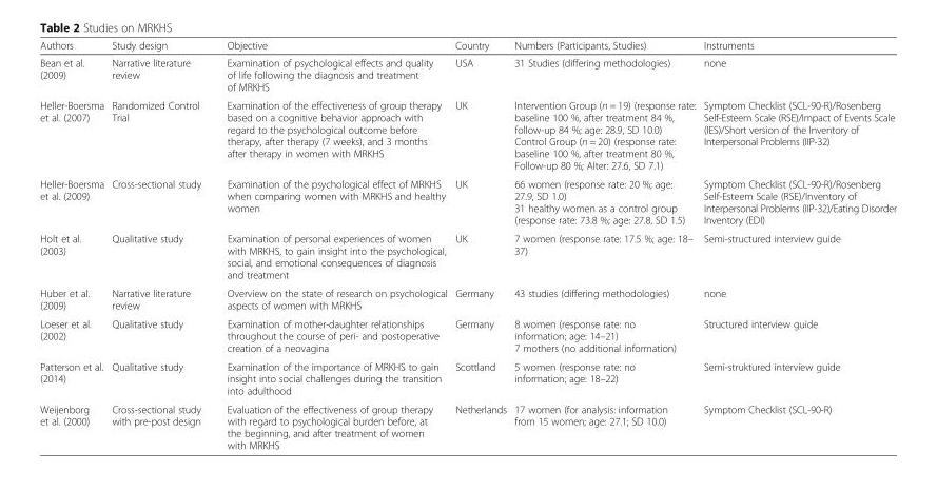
<table><thead><tr><td>Authors</td><td>Study design</td><td>Objective</td><td>Country</td><td>Numbers (Participants, Studies)</td><td>Instruments</td></tr></thead><tbody><tr><td>Bean et al. (2009)</td><td>Narrative literature review</td><td>Examination of psychological effects and quality of life following the diagnosis and treatment of MRKHS</td><td>USA</td><td>31 Studies (differing methodologies)</td><td>none</td></tr><tr><td>Heller-Boersma et al. (2007)</td><td>Randomized Control Trial</td><td>Examination of the effectiveness of group therapy based on a cognitive behavior approach with regard to the psychological outcome before therapy, after therapy (7 weeks), and 3 months after therapy in women with MRKHS</td><td>UK</td><td>Intervention Group (n = 19) (response rate: baseline 100 %, after treatment 84 %, follow-up 84 %; age: 28.9, SD 10.0) Control Group (n = 20) (response rate: baseline 100 %, after treatment 80 %, Follow-up 80 %; Alter: 27.6, SD 7.1)</td><td>Symptom Checklist (SCL-90-R)/Rosenberg Self-Esteem Scale (RSE)/Impact of Events Scale (IES)/Short version of the Inventory of Interpersonal Problems (IIP-32)</td></tr><tr><td>Heller-Boersma et al. (2009)</td><td>Cross-sectional study</td><td>Examination of the psychological effect of MRKHS when comparing women with MRKHS and healthy women</td><td>UK</td><td>66 women (response rate: 20 %; age: 27.9, SD 1.0) 31 healthy women as a control group (response rate: 73.8 %; age: 27.8, SD 1.5)</td><td>Symptom Checklist (SCL-90-R)/Rosenberg Self-Esteem Scale (RSE)/Inventory of Interpersonal Problems (IIP-32)/Eating Disorder Inventory (EDI)</td></tr><tr><td>Holt et al. (2003)</td><td>Qualitative study</td><td>Examination of personal experiences of women with MRKHS, to gain insight into the psychological, social, and emotional consequences of diagnosis and treatment</td><td>UK</td><td>7 women (response rate: 17.5 %; age: 18– 37)</td><td>Semi-structured interview guide</td></tr><tr><td>Huber et al. (2009)</td><td>Narrative literature review</td><td>Overview on the state of research on psychological aspects of women with MRKHS</td><td>Germany</td><td>43 studies (differing methodologies)</td><td>none</td></tr><tr><td>Loeser et al. (2002)</td><td>Qualitative study</td><td>Examination of mother-daughter relationships throughout the course of peri- and postoperative creation of a neovagina</td><td>Germany</td><td>8 women (response rate: no information; age: 14–21) 7 mothers (no additional information)</td><td>Structured interview guide</td></tr><tr><td>Patterson et al. (2014)</td><td>Qualitative study</td><td>Examination of the importance of MRKHS to gain insight into social challenges during the transition into adulthood</td><td>Scottland</td><td>5 women (response rate: no information; age: 18–22)</td><td>Semi-struktured interview guide</td></tr><tr><td>Weijenborg et al. (2000)</td><td>Cross-sectional study with pre-post design</td><td>Evaluation of the effectiveness of group therapy with regard to psychological burden before, at the beginning, and after treatment of women with MRKHS</td><td>Netherlands</td><td>17 women (for analysis: information from 15 women; age: 27.1; SD 10.0)</td><td>Symptom Checklist (SCL-90-R)</td></tr></tbody></table>